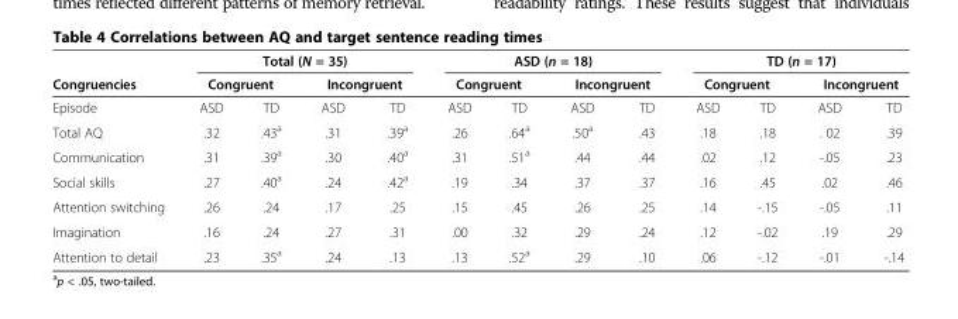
<table><thead><tr><td rowspan="3">Congruencies Episode</td><td colspan="4">Total (N = 35)</td><td colspan="4">ASD (n = 18)</td><td colspan="4">TD (n = 17)</td></tr><tr><td colspan="2">Congruent</td><td colspan="2">Incongruent</td><td colspan="2">Congruent</td><td colspan="2">Incongruent</td><td colspan="2">Congruent</td><td colspan="2">Incongruent</td></tr><tr><td>ASD</td><td>TD</td><td>ASD</td><td>TD</td><td>ASD</td><td>TD</td><td>ASD</td><td>TD</td><td>ASD</td><td>TD</td><td>ASD</td><td>TD</td></tr></thead><tbody><tr><td>Total AQ</td><td>.32</td><td>.43<sup>a</sup></td><td>.31</td><td>.39<sup>a</sup></td><td>.26</td><td>.64<sup>a</sup></td><td>.50<sup>a</sup></td><td>.43</td><td>.18</td><td>.18</td><td>. 02</td><td>.39</td></tr><tr><td>Communication</td><td>.31</td><td>.39<sup>a</sup></td><td>.30</td><td>.40<sup>a</sup></td><td>.31</td><td>.51<sup>a</sup></td><td>.44</td><td>.44</td><td>.02</td><td>.12</td><td>-.05</td><td>.23</td></tr><tr><td>Social skills</td><td>.27</td><td>.40<sup>a</sup></td><td>.24</td><td>.42<sup>a</sup></td><td>.19</td><td>.34</td><td>.37</td><td>.37</td><td>.16</td><td>.45</td><td>.02</td><td>.46</td></tr><tr><td>Attention switching</td><td>.26</td><td>.24</td><td>.17</td><td>.25</td><td>.15</td><td>.45</td><td>.26</td><td>.25</td><td>.14</td><td>-.15</td><td>-.05</td><td>.11</td></tr><tr><td>Imagination</td><td>.16</td><td>.24</td><td>.27</td><td>.31</td><td>.00</td><td>.32</td><td>.29</td><td>.24</td><td>.12</td><td>-.02</td><td>.19</td><td>.29</td></tr><tr><td>Attention to detail</td><td>.23</td><td>.35<sup>a</sup></td><td>.24</td><td>.13</td><td>.13</td><td>.52<sup>a</sup></td><td>.29</td><td>.10</td><td>.06</td><td>-.12</td><td>-.01</td><td>-.14</td></tr></tbody></table>